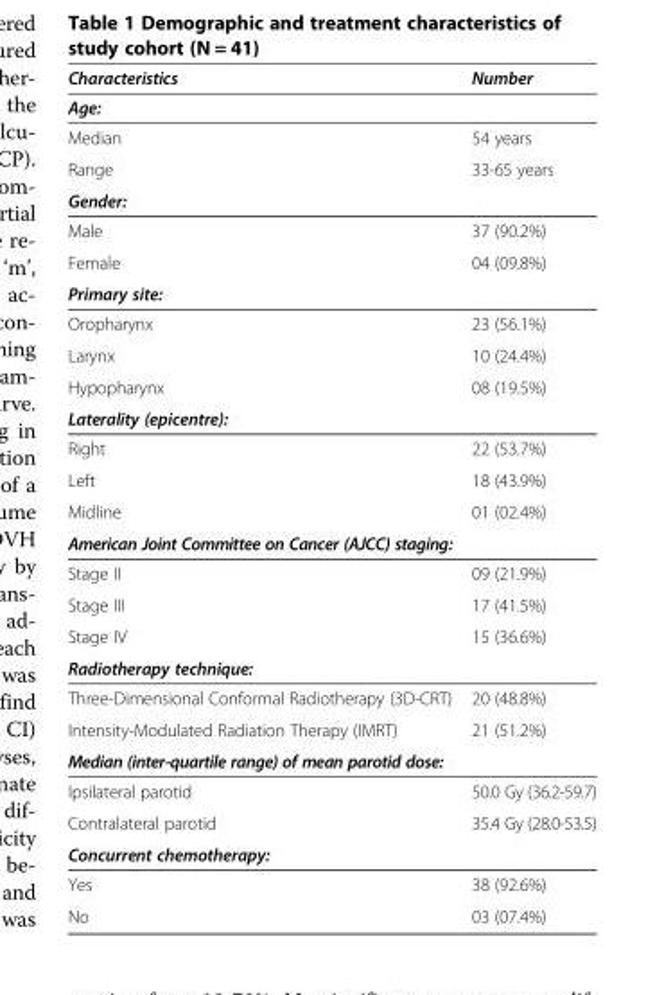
<table><thead><tr><td>Characteristics</td><td>Number</td></tr></thead><tbody><tr><td colspan="2">Age:</td></tr><tr><td>Median</td><td>54 years</td></tr><tr><td>Range</td><td>33-65 years</td></tr><tr><td colspan="2">Gender:</td></tr><tr><td>Male</td><td>37 (90.2%)</td></tr><tr><td>Female</td><td>04 (09.8%)</td></tr><tr><td colspan="2">Primary site:</td></tr><tr><td>Oropharynx</td><td>23 (56.1%)</td></tr><tr><td>Larynx</td><td>10 (24.4%)</td></tr><tr><td>Hypopharynx</td><td>08 (19.5%)</td></tr><tr><td colspan="2">Laterality (epicentre):</td></tr><tr><td>Right</td><td>22 (53.7%)</td></tr><tr><td>Left</td><td>18 (43.9%)</td></tr><tr><td>Midline</td><td>01 (02.4%)</td></tr><tr><td colspan="2">American Joint Committee on Cancer (AJCC) staging:</td></tr><tr><td>Stage II</td><td>09 (21.9%)</td></tr><tr><td>Stage III</td><td>17 (41.5%)</td></tr><tr><td>Stage IV</td><td>15 (36.6%)</td></tr><tr><td colspan="2">Radiotherapy technique:</td></tr><tr><td>Three-Dimensional Conformal Radiotherapy (3D-CRT)</td><td>20 (48.8%)</td></tr><tr><td>Intensity-Modulated Radiation Therapy (IMRT)</td><td>21 (51.2%)</td></tr><tr><td colspan="2">Median (inter-quartile range) of mean parotid dose:</td></tr><tr><td>Ipsilateral parotid</td><td>50.0 Gy (36.2-59.7)</td></tr><tr><td>Contralateral parotid</td><td>35.4 Gy (28.0-53.5)</td></tr><tr><td colspan="2">Concurrent chemotherapy:</td></tr><tr><td>Yes</td><td>38 (92.6%)</td></tr><tr><td>No</td><td>03 (07.4%)</td></tr></tbody></table>